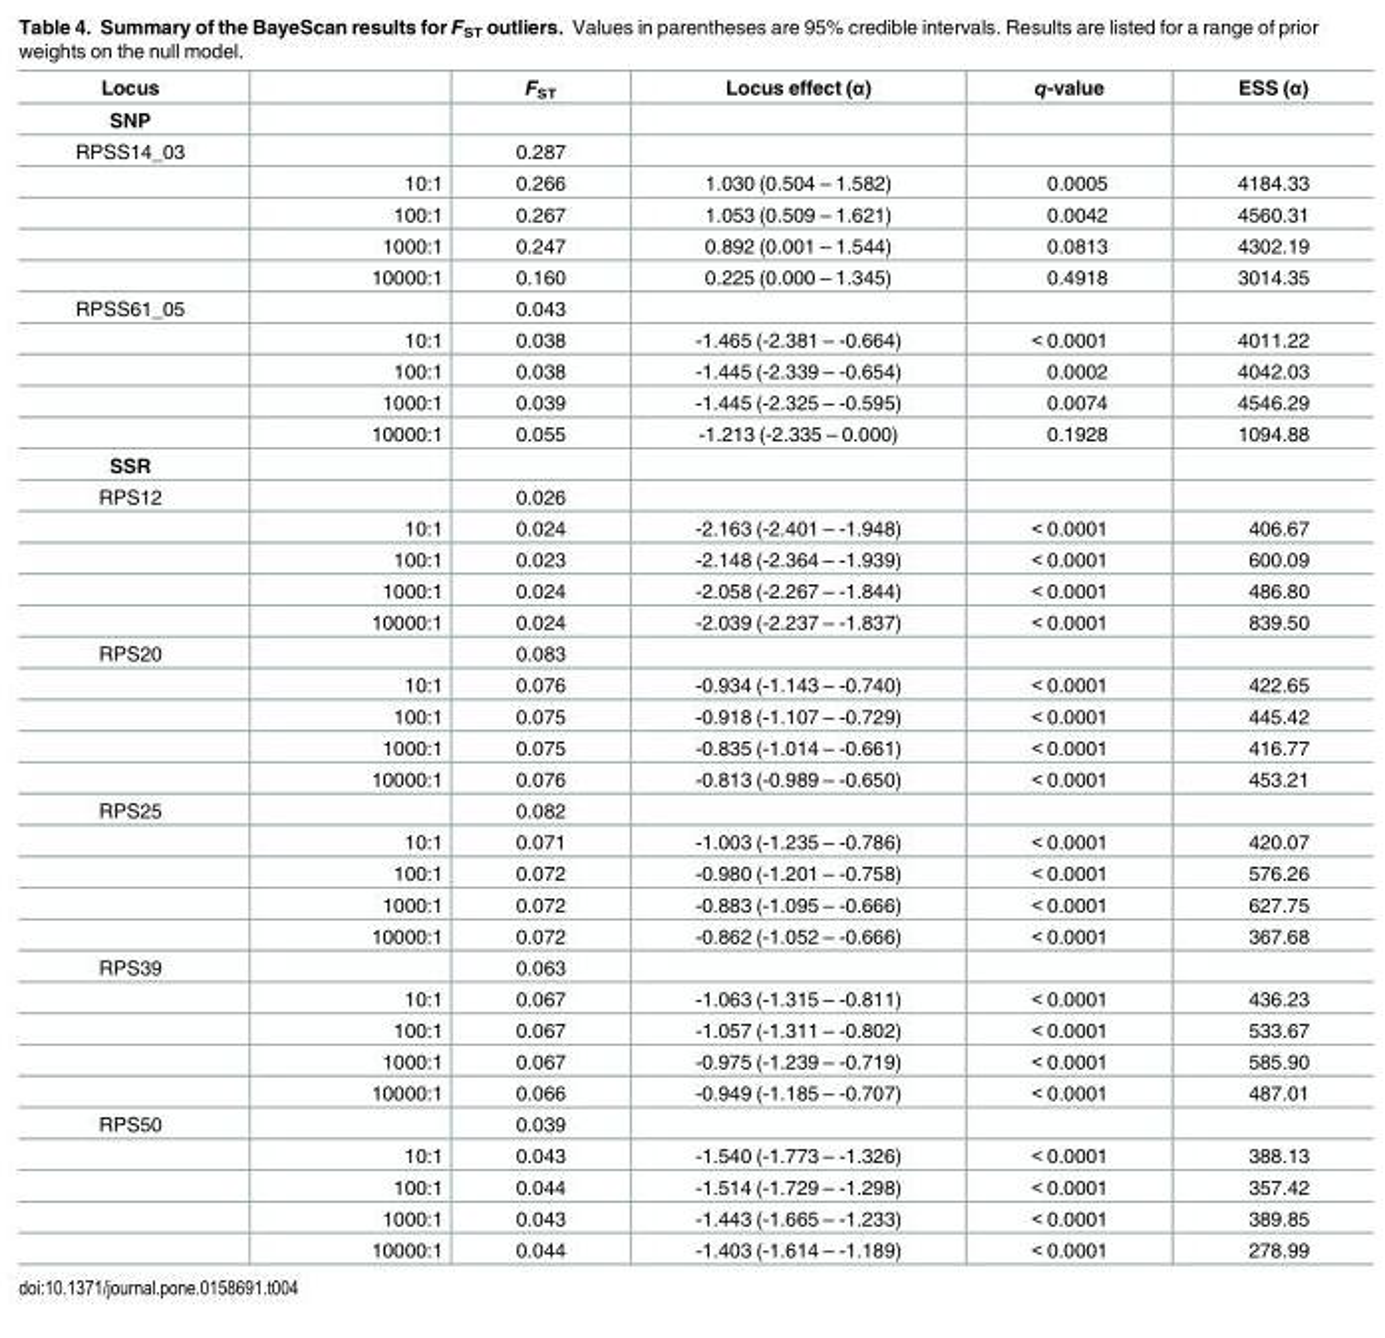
<table><thead><tr><td>Locus</td><td></td><td>F<sub>ST</sub></td><td>Locus effect (α)</td><td>q-value</td><td>ESS (α)</td></tr></thead><tbody><tr><td colspan="6">SNP</td></tr><tr><td rowspan="5">RPSS14_03</td><td></td><td>0.287</td><td></td><td></td><td></td></tr><tr><td>10:1</td><td>0.266</td><td>1.030 (0.504 – 1.582)</td><td>0.0005</td><td>4184.33</td></tr><tr><td>100:1</td><td>0.267</td><td>1.053 (0.509 – 1.621)</td><td>0.0042</td><td>4560.31</td></tr><tr><td>1000:1</td><td>0.247</td><td>0.892 (0.001 – 1.544)</td><td>0.0813</td><td>4302.19</td></tr><tr><td>10000:1</td><td>0.160</td><td>0.225 (0.000 – 1.345)</td><td>0.4918</td><td>3014.35</td></tr><tr><td rowspan="5">RPSS61_05</td><td></td><td>0.043</td><td></td><td></td><td></td></tr><tr><td>10:1</td><td>0.038</td><td>-1.465 (-2.381 – -0.664)</td><td>&lt; 0.0001</td><td>4011.22</td></tr><tr><td>100:1</td><td>0.038</td><td>-1.445 (-2.339 – -0.654)</td><td>0.0002</td><td>4042.03</td></tr><tr><td>1000:1</td><td>0.039</td><td>-1.445 (-2.325 – -0.595)</td><td>0.0074</td><td>4546.29</td></tr><tr><td>10000:1</td><td>0.055</td><td>-1.213 (-2.335 – 0.000)</td><td>0.1928</td><td>1094.88</td></tr><tr><td colspan="6">SSR</td></tr><tr><td rowspan="5">RPS12</td><td></td><td>0.026</td><td></td><td></td><td></td></tr><tr><td>10:1</td><td>0.024</td><td>-2.163 (-2.401 – -1.948)</td><td>&lt; 0.0001</td><td>406.67</td></tr><tr><td>100:1</td><td>0.023</td><td>-2.148 (-2.364 – -1.939)</td><td>&lt; 0.0001</td><td>600.09</td></tr><tr><td>1000:1</td><td>0.024</td><td>-2.058 (-2.267 – -1.844)</td><td>&lt; 0.0001</td><td>486.80</td></tr><tr><td>10000:1</td><td>0.024</td><td>-2.039 (-2.237 – -1.837)</td><td>&lt; 0.0001</td><td>839.50</td></tr><tr><td rowspan="5">RPS20</td><td></td><td>0.083</td><td></td><td></td><td></td></tr><tr><td>10:1</td><td>0.076</td><td>-0.934 (-1.143 – -0.740)</td><td>&lt; 0.0001</td><td>422.65</td></tr><tr><td>100:1</td><td>0.075</td><td>-0.918 (-1.107 – -0.729)</td><td>&lt; 0.0001</td><td>445.42</td></tr><tr><td>1000:1</td><td>0.075</td><td>-0.835 (-1.014 – -0.661)</td><td>&lt; 0.0001</td><td>416.77</td></tr><tr><td>10000:1</td><td>0.076</td><td>-0.813 (-0.989 – -0.650)</td><td>&lt; 0.0001</td><td>453.21</td></tr><tr><td rowspan="5">RPS25</td><td></td><td>0.082</td><td></td><td></td><td></td></tr><tr><td>10:1</td><td>0.071</td><td>-1.003 (-1.235 – -0.786)</td><td>&lt; 0.0001</td><td>420.07</td></tr><tr><td>100:1</td><td>0.072</td><td>-0.980 (-1.201 – -0.758)</td><td>&lt; 0.0001</td><td>576.26</td></tr><tr><td>1000:1</td><td>0.072</td><td>-0.883 (-1.095 – -0.666)</td><td>&lt; 0.0001</td><td>627.75</td></tr><tr><td>10000:1</td><td>0.072</td><td>-0.862 (-1.052 – -0.666)</td><td>&lt; 0.0001</td><td>367.68</td></tr><tr><td rowspan="5">RPS39</td><td></td><td>0.063</td><td></td><td></td><td></td></tr><tr><td>10:1</td><td>0.067</td><td>-1.063 (-1.315 – -0.811)</td><td>&lt; 0.0001</td><td>436.23</td></tr><tr><td>100:1</td><td>0.067</td><td>-1.057 (-1.311 – -0.802)</td><td>&lt; 0.0001</td><td>533.67</td></tr><tr><td>1000:1</td><td>0.067</td><td>-0.975 (-1.239 – -0.719)</td><td>&lt; 0.0001</td><td>585.90</td></tr><tr><td>10000:1</td><td>0.066</td><td>-0.949 (-1.185 – -0.707)</td><td>&lt; 0.0001</td><td>487.01</td></tr><tr><td rowspan="5">RPS50</td><td></td><td>0.039</td><td></td><td></td><td></td></tr><tr><td>10:1</td><td>0.043</td><td>-1.540 (-1.773 – -1.326)</td><td>&lt; 0.0001</td><td>388.13</td></tr><tr><td>100:1</td><td>0.044</td><td>-1.514 (-1.729 – -1.298)</td><td>&lt; 0.0001</td><td>357.42</td></tr><tr><td>1000:1</td><td>0.043</td><td>-1.443 (-1.665 – -1.233)</td><td>&lt; 0.0001</td><td>389.85</td></tr><tr><td>10000:1</td><td>0.044</td><td>-1.403 (-1.614 – -1.189)</td><td>&lt; 0.0001</td><td>278.99</td></tr></tbody></table>